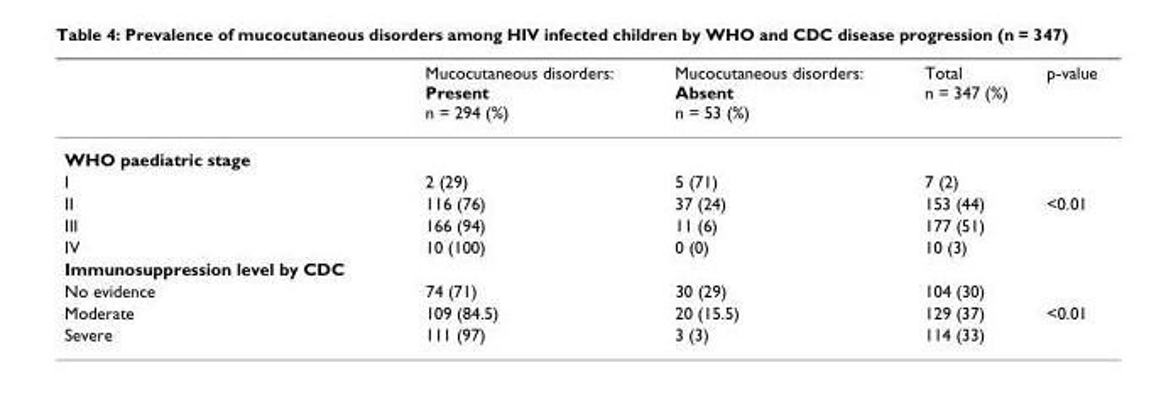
<table><thead><tr><td></td><td>Mucocutaneous disorders: Present n = 294 (%)</td><td>Mucocutaneous disorders: Absent n = 53 (%)</td><td>Total n = 347 (%)</td><td>p-value</td></tr></thead><tbody><tr><td colspan="5">WHO paediatric stage</td></tr><tr><td>I</td><td>2 (29)</td><td>5 (71)</td><td>7 (2)</td><td></td></tr><tr><td>II</td><td>116 (76)</td><td>37 (24)</td><td>153 (44)</td><td>&lt;0.01</td></tr><tr><td>III</td><td>166 (94)</td><td>11 (6)</td><td>177 (51)</td><td></td></tr><tr><td>IV</td><td>10 (100)</td><td>0 (0)</td><td>10 (3)</td><td></td></tr><tr><td colspan="5">Immunosuppression level by CDC</td></tr><tr><td>No evidence</td><td>74 (71)</td><td>30 (29)</td><td>104 (30)</td><td></td></tr><tr><td>Moderate</td><td>109 (84.5)</td><td>20 (15.5)</td><td>129 (37)</td><td>&lt;0.01</td></tr><tr><td>Severe</td><td>111 (97)</td><td>3 (3)</td><td>114 (33)</td><td></td></tr></tbody></table>